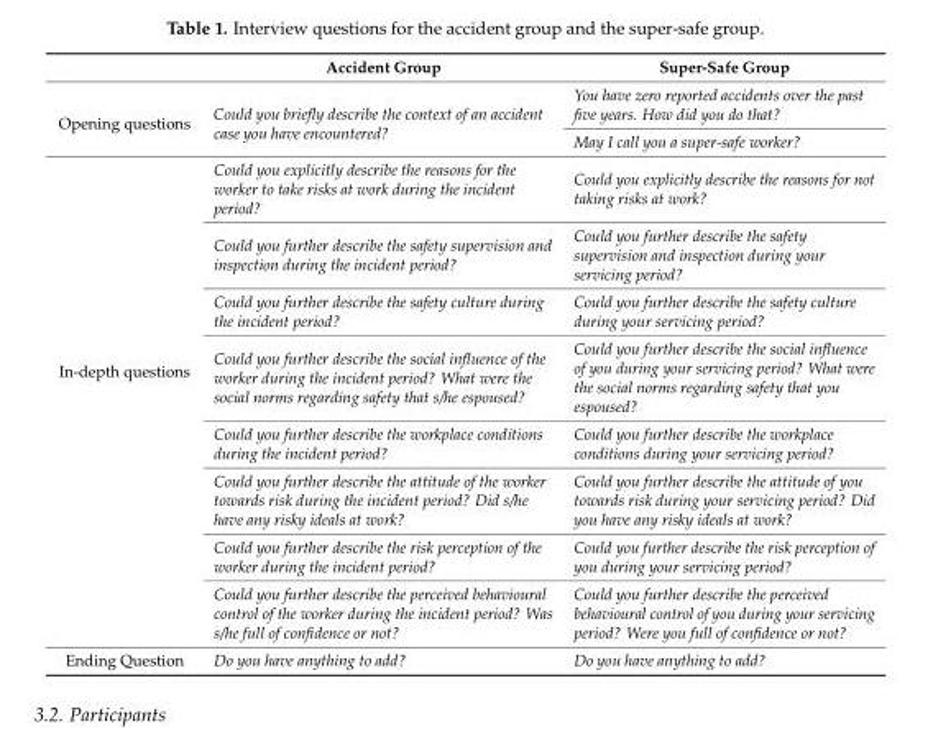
<table><thead><tr><td></td><td>Accident Group</td><td>Super-Safe Group</td></tr></thead><tbody><tr><td rowspan="2">Opening questions</td><td rowspan="2">Could you briefly describe the context of an accident case you have encountered?</td><td>You have zero reported accidents over the past five years. How did you do that?</td></tr><tr><td>May I call you a super-safe worker?</td></tr><tr><td rowspan="8">In-depth questions</td><td>Could you explicitly describe the reasons for the worker to take risks at work during the incident period?</td><td>Could you explicitly describe the reasons for not taking risks at work?</td></tr><tr><td>Could you further describe the safety supervision and inspection during the incident period?</td><td>Could you further describe the safety supervision and inspection during your servicing period?</td></tr><tr><td>Could you further describe the safety culture during the incident period?</td><td>Could you further describe the safety culture during your servicing period?</td></tr><tr><td>Could you further describe the social influence of the worker during the incident period? What were the social norms regarding safety that s/he espoused?</td><td>Could you further describe the social influence of you during your servicing period? What were the social norms regarding safety that you espoused?</td></tr><tr><td>Could you further describe the workplace conditions during the incident period?</td><td>Could you further describe the workplace conditions during your servicing period?</td></tr><tr><td>Could you further describe the attitude of the worker towards risk during the incident period? Did s/he have any risky ideals at work?</td><td>Could you further describe the attitude of you towards risk during your servicing period? Did you have any risky ideals at work?</td></tr><tr><td>Could you further describe the risk perception of the worker during the incident period?</td><td>Could you further describe the risk perception of you during your servicing period?</td></tr><tr><td>Could you further describe the perceived behavioural control of the worker during the incident period? Was s/he full of confidence or not?</td><td>Could you further describe the perceived behavioural control of you during your servicing period? Were you full of confidence or not?</td></tr><tr><td>Ending Question</td><td>Do you have anything to add?</td><td>Do you have anything to add?</td></tr></tbody></table>